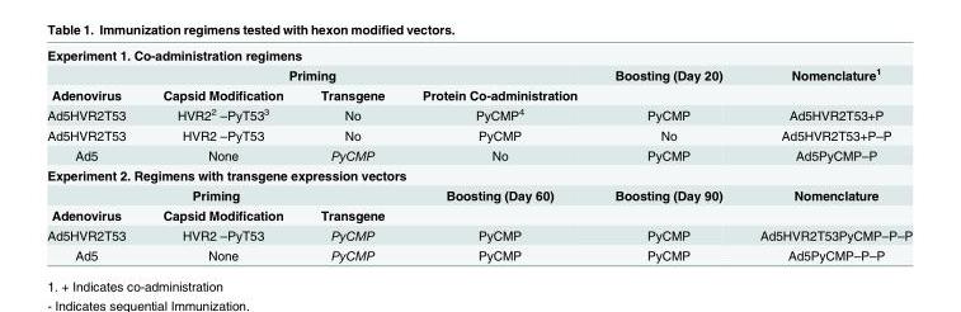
<table><tbody><tr><td colspan="6">Experiment 1. Co-administration regimens</td></tr><tr><td colspan="4">Priming</td><td>Boosting (Day 20)</td><td>Nomenclature<sup>1</sup></td></tr><tr><td>Adenovirus</td><td>Capsid Modification</td><td>Transgene</td><td>Protein Co-administration</td><td></td><td></td></tr><tr><td>Ad5HVR2T53</td><td>HVR2<sup>2</sup> –PyT53<sup>3</sup></td><td>No</td><td>PyCMP<sup>4</sup></td><td>PyCMP</td><td>Ad5HVR2T53+P</td></tr><tr><td>Ad5HVR2T53</td><td>HVR2 –PyT53</td><td>No</td><td>PyCMP</td><td>No</td><td>Ad5HVR2T53+P–P</td></tr><tr><td>Ad5</td><td>None</td><td>PyCMP</td><td>No</td><td>PyCMP</td><td>Ad5PyCMP–P</td></tr><tr><td colspan="6">Experiment 2. Regimens with transgene expression vectors</td></tr><tr><td colspan="3">Priming</td><td>Boosting (Day 60)</td><td>Boosting (Day 90)</td><td>Nomenclature</td></tr><tr><td>Adenovirus</td><td>Capsid Modification</td><td>Transgene</td><td></td><td></td><td></td></tr><tr><td>Ad5HVR2T53</td><td>HVR2 –PyT53</td><td>PyCMP</td><td>PyCMP</td><td>PyCMP</td><td>Ad5HVR2T53PyCMP–P–P</td></tr><tr><td>Ad5</td><td>None</td><td>PyCMP</td><td>PyCMP</td><td>PyCMP</td><td>Ad5PyCMP–P–P</td></tr></tbody></table>